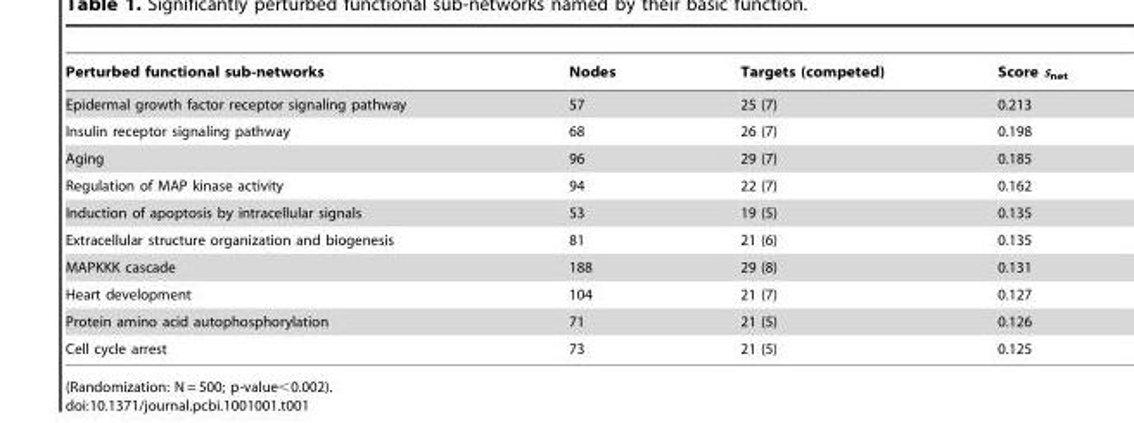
<table><thead><tr><td>Perturbed functional sub-networks</td><td>Nodes</td><td>Targets (competed)</td><td>Score s<sub>net</sub></td></tr></thead><tbody><tr><td>Epidermal growth factor receptor signaling pathway</td><td>57</td><td>25 (7)</td><td>0.213</td></tr><tr><td>Insulin receptor signaling pathway</td><td>68</td><td>26 (7)</td><td>0.198</td></tr><tr><td>Aging</td><td>96</td><td>29 (7)</td><td>0.185</td></tr><tr><td>Regulation of MAP kinase activity</td><td>94</td><td>22 (7)</td><td>0.162</td></tr><tr><td>Induction of apoptosis by intracellular signals</td><td>53</td><td>19 (5)</td><td>0.135</td></tr><tr><td>Extracellular structure organization and biogenesis</td><td>81</td><td>21 (6)</td><td>0.135</td></tr><tr><td>MAPKKK cascade</td><td>188</td><td>29 (8)</td><td>0.131</td></tr><tr><td>Heart development</td><td>104</td><td>21 (7)</td><td>0.127</td></tr><tr><td>Protein amino acid autophosphorylation</td><td>71</td><td>21 (5)</td><td>0.126</td></tr><tr><td>Cell cycle arrest</td><td>73</td><td>21 (5)</td><td>0.125</td></tr></tbody></table>